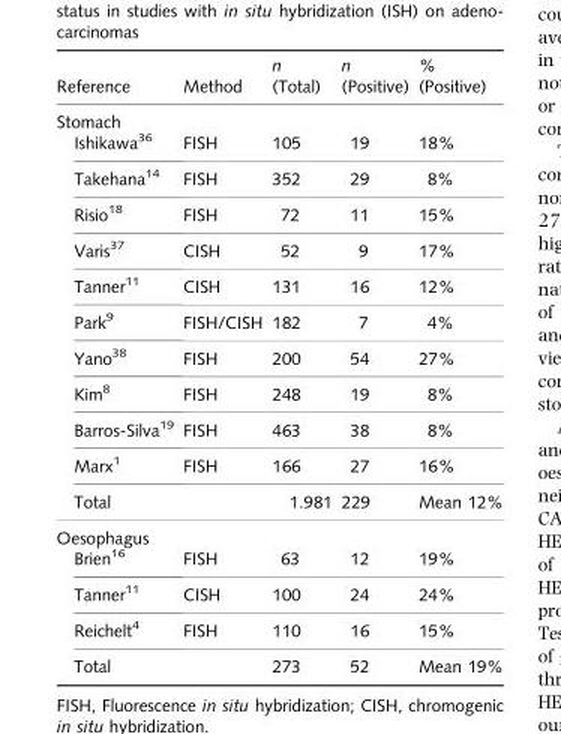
<table><thead><tr><td>Reference</td><td>Method</td><td>n (Total)</td><td>n (Positive)</td><td>% (Positive)</td></tr></thead><tbody><tr><td colspan="5">Stomach</td></tr><tr><td>Ishikawa<sup>36</sup></td><td>FISH</td><td>105</td><td>19</td><td>18%</td></tr><tr><td>Takehana<sup>14</sup></td><td>FISH</td><td>352</td><td>29</td><td>8%</td></tr><tr><td>Risio<sup>18</sup></td><td>FISH</td><td>72</td><td>11</td><td>15%</td></tr><tr><td>Varis<sup>37</sup></td><td>CISH</td><td>52</td><td>9</td><td>17%</td></tr><tr><td>Tanner<sup>11</sup></td><td>CISH</td><td>131</td><td>16</td><td>12%</td></tr><tr><td>Park<sup>9</sup></td><td>FISH/CISH</td><td>182</td><td>7</td><td>4%</td></tr><tr><td>Yano<sup>38</sup></td><td>FISH</td><td>200</td><td>54</td><td>27%</td></tr><tr><td>Kim<sup>8</sup></td><td>FISH</td><td>248</td><td>19</td><td>8%</td></tr><tr><td>Barros-Silva<sup>19</sup></td><td>FISH</td><td>463</td><td>38</td><td>8%</td></tr><tr><td>Marx<sup>1</sup></td><td>FISH</td><td>166</td><td>27</td><td>16%</td></tr><tr><td colspan="2">Total</td><td>1.981</td><td>229</td><td>Mean 12%</td></tr><tr><td colspan="5">Oesophagus</td></tr><tr><td>Brien<sup>16</sup></td><td>FISH</td><td>63</td><td>12</td><td>19%</td></tr><tr><td>Tanner<sup>11</sup></td><td>CISH</td><td>100</td><td>24</td><td>24%</td></tr><tr><td>Reichelt<sup>4</sup></td><td>FISH</td><td>110</td><td>16</td><td>15%</td></tr><tr><td colspan="2">Total</td><td>273</td><td>52</td><td>Mean 19%</td></tr></tbody></table>